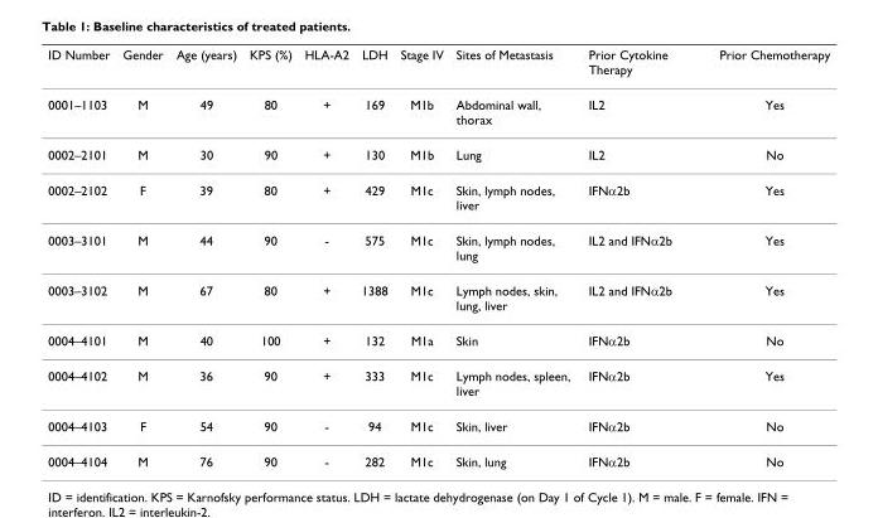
<table><thead><tr><td>ID Number</td><td>Gender</td><td>Age (years)</td><td>KPS (%)</td><td>HLA-A2</td><td>LDH</td><td>Stage IV</td><td>Sites of Metastasis</td><td>Prior Cytokine Therapy</td><td>Prior Chemotherapy</td></tr></thead><tbody><tr><td>0001–1103</td><td>M</td><td>49</td><td>80</td><td>+</td><td>169</td><td>M1b</td><td>Abdominal wall, thorax</td><td>IL2</td><td>Yes</td></tr><tr><td>0002–2101</td><td>M</td><td>30</td><td>90</td><td>+</td><td>130</td><td>M1b</td><td>Lung</td><td>IL2</td><td>No</td></tr><tr><td>0002–2102</td><td>F</td><td>39</td><td>80</td><td>+</td><td>429</td><td>M1c</td><td>Skin, lymph nodes, liver</td><td>IFNα2b</td><td>Yes</td></tr><tr><td>0003–3101</td><td>M</td><td>44</td><td>90</td><td>-</td><td>575</td><td>M1c</td><td>Skin, lymph nodes, lung</td><td>IL2 and IFNα2b</td><td>Yes</td></tr><tr><td>0003–3102</td><td>M</td><td>67</td><td>80</td><td>+</td><td>1388</td><td>M1c</td><td>Lymph nodes, skin, lung, liver</td><td>IL2 and IFNα2b</td><td>Yes</td></tr><tr><td>0004–4101</td><td>M</td><td>40</td><td>100</td><td>+</td><td>132</td><td>M1a</td><td>Skin</td><td>IFNα2b</td><td>No</td></tr><tr><td>0004–4102</td><td>M</td><td>36</td><td>90</td><td>+</td><td>333</td><td>M1c</td><td>Lymph nodes, spleen, liver</td><td>IFNα2b</td><td>Yes</td></tr><tr><td>0004–4103</td><td>F</td><td>54</td><td>90</td><td>-</td><td>94</td><td>M1c</td><td>Skin, liver</td><td>IFNα2b</td><td>No</td></tr><tr><td>0004–4104</td><td>M</td><td>76</td><td>90</td><td>-</td><td>282</td><td>M1c</td><td>Skin, lung</td><td>IFNα2b</td><td>No</td></tr></tbody></table>